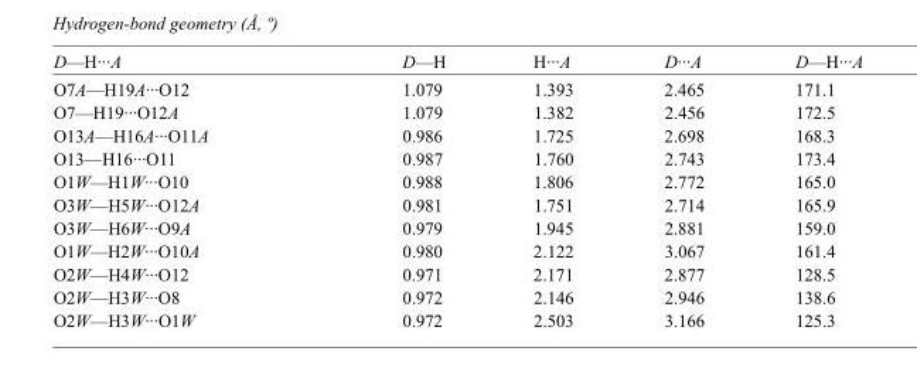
<table><tbody><tr><td>D—H···A</td><td>D—H</td><td>H···A</td><td>D···A</td><td>D—H···A</td></tr><tr><td>O7A—H19A···O12</td><td>1.079</td><td>1.393</td><td>2.465</td><td>171.1</td></tr><tr><td>O7—H19···O12A</td><td>1.079</td><td>1.382</td><td>2.456</td><td>172.5</td></tr><tr><td>O13A—H16A···O11A</td><td>0.986</td><td>1.725</td><td>2.698</td><td>168.3</td></tr><tr><td>O13—H16···O11</td><td>0.987</td><td>1.760</td><td>2.743</td><td>173.4</td></tr><tr><td>O1W—H1W···O10</td><td>0.988</td><td>1.806</td><td>2.772</td><td>165.0</td></tr><tr><td>O3W—H5W···O12A</td><td>0.981</td><td>1.751</td><td>2.714</td><td>165.9</td></tr><tr><td>O3W—H6W···O9A</td><td>0.979</td><td>1.945</td><td>2.881</td><td>159.0</td></tr><tr><td>O1W—H2W···O10A</td><td>0.980</td><td>2.122</td><td>3.067</td><td>161.4</td></tr><tr><td>O2W—H4W···O12</td><td>0.971</td><td>2.171</td><td>2.877</td><td>128.5</td></tr><tr><td>O2W—H3W···O8</td><td>0.972</td><td>2.146</td><td>2.946</td><td>138.6</td></tr><tr><td>O2W—H3W···O1W</td><td>0.972</td><td>2.503</td><td>3.166</td><td>125.3</td></tr></tbody></table>